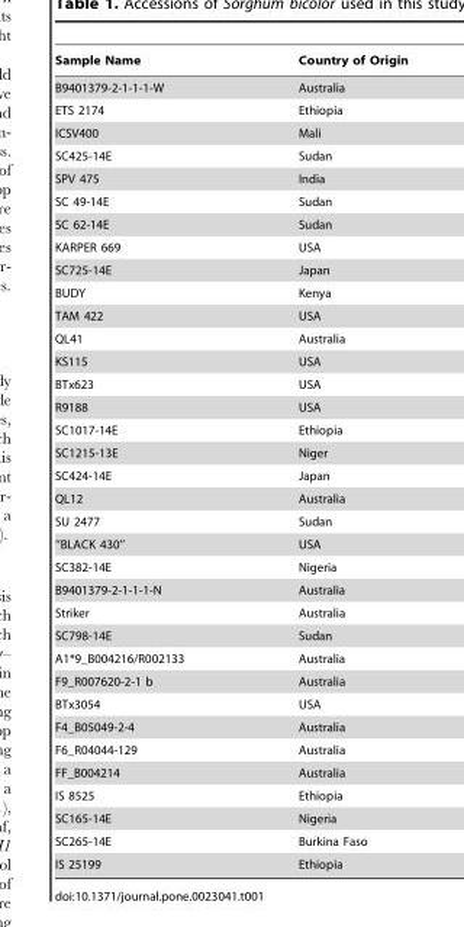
<table><thead><tr><td>Sample Name</td><td>Country of Origin</td></tr></thead><tbody><tr><td>B9401379-2-1-1-1-W</td><td>Australia</td></tr><tr><td>ETS 2174</td><td>Ethiopia</td></tr><tr><td>ICSV400</td><td>Mali</td></tr><tr><td>SC425-14E</td><td>Sudan</td></tr><tr><td>SPV 475</td><td>India</td></tr><tr><td>SC 49-14E</td><td>Sudan</td></tr><tr><td>SC 62-14E</td><td>Sudan</td></tr><tr><td>KARPER 669</td><td>USA</td></tr><tr><td>SC725-14E</td><td>Japan</td></tr><tr><td>BUDY</td><td>Kenya</td></tr><tr><td>TAM 422</td><td>USA</td></tr><tr><td>QL41</td><td>Australia</td></tr><tr><td>KS115</td><td>USA</td></tr><tr><td>BTx623</td><td>USA</td></tr><tr><td>R9188</td><td>USA</td></tr><tr><td>SC1017-14E</td><td>Ethiopia</td></tr><tr><td>SC1215-13E</td><td>Niger</td></tr><tr><td>SC424-14E</td><td>Japan</td></tr><tr><td>QL12</td><td>Australia</td></tr><tr><td>SU 2477</td><td>Sudan</td></tr><tr><td>‘‘BLACK 430’’</td><td>USA</td></tr><tr><td>SC382-14E</td><td>Nigeria</td></tr><tr><td>B9401379-2-1-1-1-N</td><td>Australia</td></tr><tr><td>Striker</td><td>Australia</td></tr><tr><td>SC798-14E</td><td>Sudan</td></tr><tr><td>A1*9_B004216/R002133</td><td>Australia</td></tr><tr><td>F9_R007620-2-1 b</td><td>Australia</td></tr><tr><td>BTx3054</td><td>USA</td></tr><tr><td>F4_B05049-2-4</td><td>Australia</td></tr><tr><td>F6_R04044-129</td><td>Australia</td></tr><tr><td>FF_B004214</td><td>Australia</td></tr><tr><td>IS 8525</td><td>Ethiopia</td></tr><tr><td>SC165-14E</td><td>Nigeria</td></tr><tr><td>SC265-14E</td><td>Burkina Faso</td></tr><tr><td>IS 25199</td><td>Ethiopia</td></tr></tbody></table>